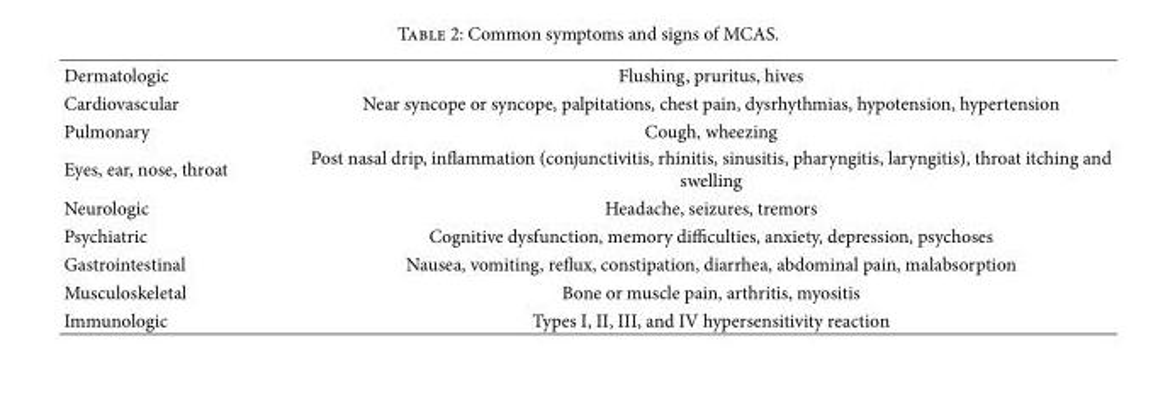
<table><tbody><tr><td>Dermatologic</td><td>Flushing, pruritus, hives</td></tr><tr><td>Cardiovascular</td><td>Near syncope or syncope, palpitations, chest pain, dysrhythmias, hypotension, hypertension</td></tr><tr><td>Pulmonary</td><td>Cough, wheezing</td></tr><tr><td>Eyes, ear, nose, throat</td><td>Post nasal drip, inflammation (conjunctivitis, rhinitis, sinusitis, pharyngitis, laryngitis), throat itching and swelling</td></tr><tr><td>Neurologic</td><td>Headache, seizures, tremors</td></tr><tr><td>Psychiatric</td><td>Cognitive dysfunction, memory difficulties, anxiety, depression, psychoses</td></tr><tr><td>Gastrointestinal</td><td>Nausea, vomiting, reflux, constipation, diarrhea, abdominal pain, malabsorption</td></tr><tr><td>Musculoskeletal</td><td>Bone or muscle pain, arthritis, myositis</td></tr><tr><td>Immunologic</td><td>Types I, II, III, and IV hypersensitivity reaction</td></tr></tbody></table>